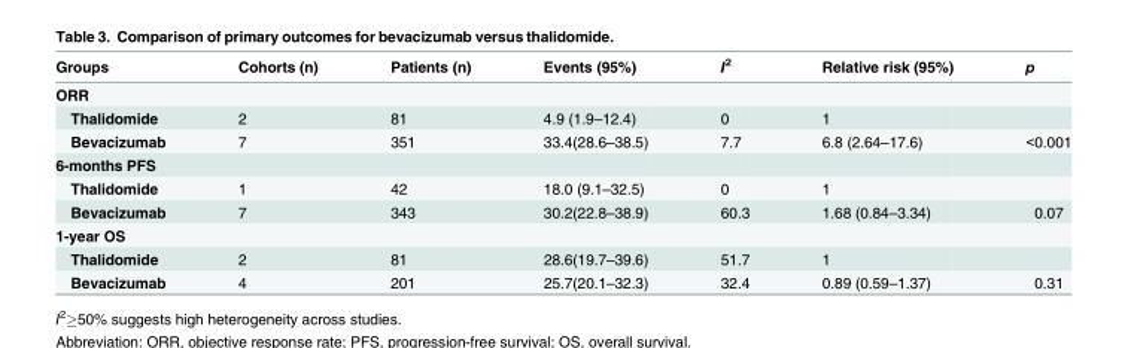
<table><thead><tr><td>Groups</td><td>Cohorts (n)</td><td>Patients (n)</td><td>Events (95%)</td><td>I<sup>2</sup></td><td>Relative risk (95%)</td><td>p</td></tr></thead><tbody><tr><td colspan="7">ORR</td></tr><tr><td>Thalidomide</td><td>2</td><td>81</td><td>4.9 (1.9–12.4)</td><td>0</td><td>1</td><td></td></tr><tr><td>Bevacizumab</td><td>7</td><td>351</td><td>33.4(28.6–38.5)</td><td>7.7</td><td>6.8 (2.64–17.6)</td><td>&lt;0.001</td></tr><tr><td colspan="7">6-months PFS</td></tr><tr><td>Thalidomide</td><td>1</td><td>42</td><td>18.0 (9.1–32.5)</td><td>0</td><td>1</td><td></td></tr><tr><td>Bevacizumab</td><td>7</td><td>343</td><td>30.2(22.8–38.9)</td><td>60.3</td><td>1.68 (0.84–3.34)</td><td>0.07</td></tr><tr><td colspan="7">1-year OS</td></tr><tr><td>Thalidomide</td><td>2</td><td>81</td><td>28.6(19.7–39.6)</td><td>51.7</td><td>1</td><td></td></tr><tr><td>Bevacizumab</td><td>4</td><td>201</td><td>25.7(20.1–32.3)</td><td>32.4</td><td>0.89 (0.59–1.37)</td><td>0.31</td></tr></tbody></table>